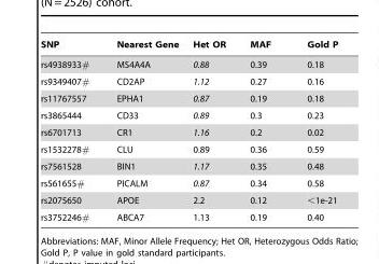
<table><thead><tr><td>SNP</td><td>Nearest Gene</td><td>Het OR</td><td>MAF</td><td>Gold P</td></tr></thead><tbody><tr><td>rs4938933#</td><td>MS4A4A</td><td>0.88</td><td>0.39</td><td>0.18</td></tr><tr><td>rs9349407#</td><td>CD2AP</td><td>1.12</td><td>0.27</td><td>0.16</td></tr><tr><td>rs11767557</td><td>EPHA1</td><td>0.87</td><td>0.19</td><td>0.18</td></tr><tr><td>rs3865444</td><td>CD33</td><td>0.89</td><td>0.3</td><td>0.23</td></tr><tr><td>rs6701713</td><td>CR1</td><td>1.16</td><td>0.2</td><td>0.02</td></tr><tr><td>rs1532278#</td><td>CLU</td><td>0.89</td><td>0.36</td><td>0.59</td></tr><tr><td>rs7561528</td><td>BIN1</td><td>1.17</td><td>0.35</td><td>0.48</td></tr><tr><td>rs561655#</td><td>PICALM</td><td>0.87</td><td>0.34</td><td>0.58</td></tr><tr><td>rs2075650</td><td>APOE</td><td>2.2</td><td>0.12</td><td>&lt;1e-21</td></tr><tr><td>rs3752246#</td><td>ABCA7</td><td>1.13</td><td>0.19</td><td>0.40</td></tr></tbody></table>